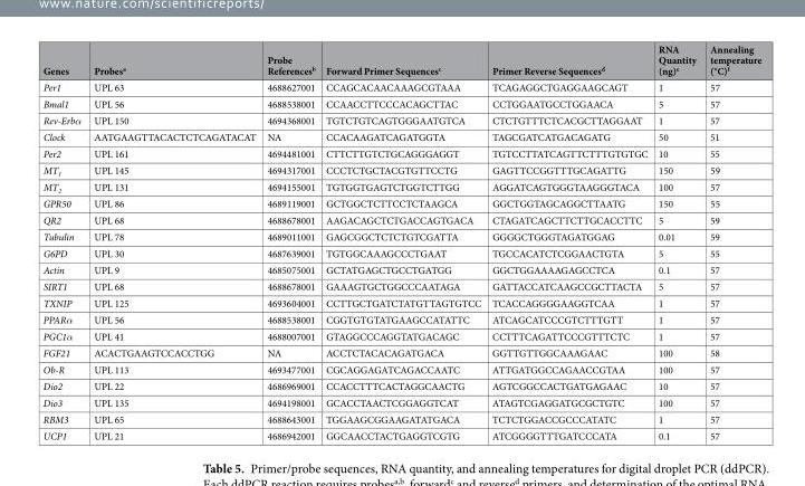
<table><thead><tr><td>Genes</td><td>Probes<sup>a</sup></td><td>Probe References<sup>b</sup></td><td>Forward Primer Sequences<sup>c</sup></td><td>Primer Reverse Sequences<sup>d</sup></td><td>RNA Quantity (ng)<sup>e</sup></td><td>Annealing temperature (°C)<sup>f</sup></td></tr></thead><tbody><tr><td>Per1</td><td>UPL 63</td><td>4688627001</td><td>CCAGCACAACAAAGCGTAAA</td><td>TCAGAGGCTGAGGAAGCAGT</td><td>1</td><td>57</td></tr><tr><td>Bmal1</td><td>UPL 56</td><td>4688538001</td><td>CCAACCTTCCCACAGCTTAC</td><td>CCTGGAATGCCTGGAACA</td><td>5</td><td>57</td></tr><tr><td>Rev-Erbα</td><td>UPL 150</td><td>4694368001</td><td>TGTCTGTCAGTGGGAATGTCA</td><td>CTCTGTTTCTCACGCTTAGGAAT</td><td>1</td><td>57</td></tr><tr><td>Clock</td><td>AATGAAGTTACACTCTCAGATACAT</td><td>NA</td><td>CCACAAGATCAGATGGTA</td><td>TAGCGATCATGACAGATG</td><td>50</td><td>51</td></tr><tr><td>Per2</td><td>UPL 161</td><td>4694481001</td><td>CTTCTTGTCTGCAGGGAGGT</td><td>TGTCCTTATCAGTTCTTTGTGTGC</td><td>10</td><td>55</td></tr><tr><td>MT<sub>1</sub></td><td>UPL 145</td><td>4694317001</td><td>CCCTCTGCTACGTGTTCCTG</td><td>GAGTTCCGGTTTGCAGATTG</td><td>150</td><td>59</td></tr><tr><td>MT<sub>2</sub></td><td>UPL 131</td><td>4694155001</td><td>TGTGGTGAGTCTGGTCTTGG</td><td>AGGATCAGTGGGTAAGGGTACA</td><td>100</td><td>57</td></tr><tr><td>GPR50</td><td>UPL 86</td><td>4689119001</td><td>GCTGGCTCTTCCTCTAAGCA</td><td>GGCTGGTAGCAGGCTTAATG</td><td>150</td><td>55</td></tr><tr><td>QR2</td><td>UPL 68</td><td>4688678001</td><td>AAGACAGCTCTGACCAGTGACA</td><td>CTAGATCAGCTTCTTGCACCTTC</td><td>5</td><td>59</td></tr><tr><td>Tubulin</td><td>UPL 78</td><td>4689011001</td><td>GAGCGGCTCTCTGTCGATTA</td><td>GGGGCTGGGTAGATGGAG</td><td>0.01</td><td>59</td></tr><tr><td>G6PD</td><td>UPL 30</td><td>4687639001</td><td>TGTGGCAAAGCCCTGAAT</td><td>TGCCACATCTCGGAACTGTA</td><td>5</td><td>55</td></tr><tr><td>Actin</td><td>UPL 9</td><td>4685075001</td><td>GCTATGAGCTGCCTGATGG</td><td>GGCTGGAAAAGAGCCTCA</td><td>0.1</td><td>57</td></tr><tr><td>SIRT1</td><td>UPL 68</td><td>4688678001</td><td>GAAAGTGCTGGCCCAATAGA</td><td>GATTACCATCAAGCCGCTTACTA</td><td>5</td><td>57</td></tr><tr><td>TXNIP</td><td>UPL 125</td><td>4693604001</td><td>CCTTGCTGATCTATGTTAGTGTCC</td><td>TCACCAGGGGAAGGTCAA</td><td>1</td><td>57</td></tr><tr><td>PPARα</td><td>UPL 56</td><td>4688538001</td><td>CGGTGTGTATGAAGCCATATTC</td><td>ATCAGCATCCCGTCTTTGTT</td><td>1</td><td>57</td></tr><tr><td>PGC1α</td><td>UPL 41</td><td>4688007001</td><td>GTAGGCCCAGGTATGACAGC</td><td>CCTTTCAGATTCCCGTTTCTC</td><td>1</td><td>57</td></tr><tr><td>FGF21</td><td>ACACTGAAGTCCACCTGG</td><td>NA</td><td>ACCTCTACACAGATGACA</td><td>GGTTGTTGGCAAAGAAC</td><td>100</td><td>58</td></tr><tr><td>Ob-R</td><td>UPL 113</td><td>4693477001</td><td>CGCAGGAGATCAGACCAATC</td><td>ATTGATGGCCAGAACCGTAA</td><td>100</td><td>57</td></tr><tr><td>Dio2</td><td>UPL 22</td><td>4686969001</td><td>CCACCTTTCACTAGGCAACTG</td><td>AGTCGGCCACTGATGAGAAC</td><td>10</td><td>57</td></tr><tr><td>Dio3</td><td>UPL 135</td><td>4694198001</td><td>GCACCTAACTCGGAGGTCAT</td><td>ATAGTCGAGGATGCGCTGTC</td><td>100</td><td>57</td></tr><tr><td>RBM3</td><td>UPL 65</td><td>4688643001</td><td>TGGAAGCGGAAGATATGACA</td><td>TCTCTGGACCGCCCATATC</td><td>1</td><td>57</td></tr><tr><td>UCP1</td><td>UPL 21</td><td>4686942001</td><td>GGCAACCTACTGAGGTCGTG</td><td>ATCGGGGTTTGATCCCATA</td><td>0.1</td><td>57</td></tr></tbody></table>